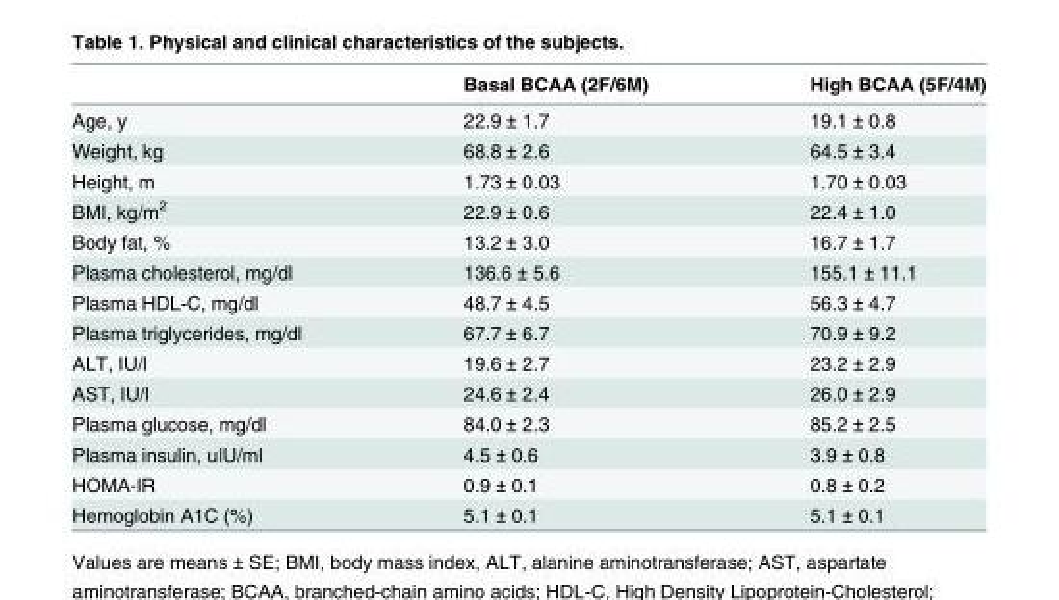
<table><thead><tr><td></td><td>Basal BCAA (2F/6M)</td><td>High BCAA (5F/4M)</td></tr></thead><tbody><tr><td>Age, y</td><td>22.9 ± 1.7</td><td>19.1 ± 0.8</td></tr><tr><td>Weight, kg</td><td>68.8 ± 2.6</td><td>64.5 ± 3.4</td></tr><tr><td>Height, m</td><td>1.73 ± 0.03</td><td>1.70 ± 0.03</td></tr><tr><td>BMI, kg/m<sup>2</sup></td><td>22.9 ± 0.6</td><td>22.4 ± 1.0</td></tr><tr><td>Body fat, %</td><td>13.2 ± 3.0</td><td>16.7 ± 1.7</td></tr><tr><td>Plasma cholesterol, mg/dl</td><td>136.6 ± 5.6</td><td>155.1 ± 11.1</td></tr><tr><td>Plasma HDL-C, mg/dl</td><td>48.7 ± 4.5</td><td>56.3 ± 4.7</td></tr><tr><td>Plasma triglycerides, mg/dl</td><td>67.7 ± 6.7</td><td>70.9 ± 9.2</td></tr><tr><td>ALT, IU/l</td><td>19.6 ± 2.7</td><td>23.2 ± 2.9</td></tr><tr><td>AST, IU/l</td><td>24.6 ± 2.4</td><td>26.0 ± 2.9</td></tr><tr><td>Plasma glucose, mg/dl</td><td>84.0 ± 2.3</td><td>85.2 ± 2.5</td></tr><tr><td>Plasma insulin, uIU/ml</td><td>4.5 ± 0.6</td><td>3.9 ± 0.8</td></tr><tr><td>HOMA-IR</td><td>0.9 ± 0.1</td><td>0.8 ± 0.2</td></tr><tr><td>Hemoglobin A1C (%)</td><td>5.1 ± 0.1</td><td>5.1 ± 0.1</td></tr></tbody></table>